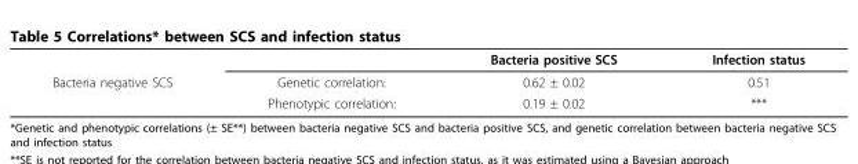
<table><thead><tr><td></td><td></td><td>Bacteria positive SCS</td><td>Infection status</td></tr></thead><tbody><tr><td rowspan="2">Bacteria negative SCS</td><td>Genetic correlation:</td><td>0.62 ± 0.02</td><td>0.51</td></tr><tr><td>Phenotypic correlation:</td><td>0.19 ± 0.02</td><td>***</td></tr></tbody></table>